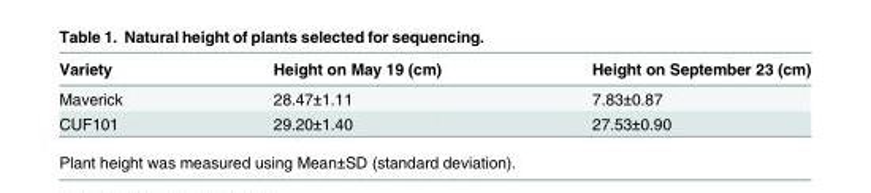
<table><thead><tr><td>Variety</td><td>Height on May 19 (cm)</td><td>Height on September 23 (cm)</td></tr></thead><tbody><tr><td>Maverick</td><td>28.47±1.11</td><td>7.83±0.87</td></tr><tr><td>CUF101</td><td>29.20±1.40</td><td>27.53±0.90</td></tr></tbody></table>